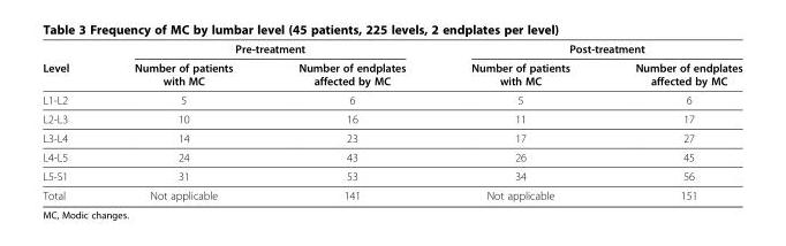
<table><thead><tr><td rowspan="2">Level</td><td colspan="2">Pre-treatment</td><td colspan="2">Post-treatment</td></tr><tr><td>Number of patients with MC</td><td>Number of endplates affected by MC</td><td>Number of patients with MC</td><td>Number of endplates affected by MC</td></tr></thead><tbody><tr><td>L1-L2</td><td>5</td><td>6</td><td>5</td><td>6</td></tr><tr><td>L2-L3</td><td>10</td><td>16</td><td>11</td><td>17</td></tr><tr><td>L3-L4</td><td>14</td><td>23</td><td>17</td><td>27</td></tr><tr><td>L4-L5</td><td>24</td><td>43</td><td>26</td><td>45</td></tr><tr><td>L5-S1</td><td>31</td><td>53</td><td>34</td><td>56</td></tr><tr><td>Total</td><td>Not applicable</td><td>141</td><td>Not applicable</td><td>151</td></tr></tbody></table>